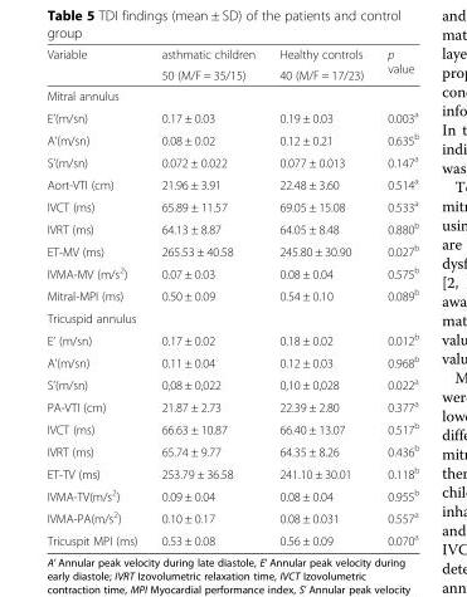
<table><thead><tr><td rowspan="2">Variable</td><td rowspan="2">asthmatic children 50 (M/F = 35/15)</td><td rowspan="2">Healthy controls 40 (M/F = 17/23)</td><td rowspan="2">p value</td></tr><tr></tr></thead><tbody><tr><td colspan="4">Mitral annulus</td></tr><tr><td>E’(m/sn)</td><td>0.17 ± 0.03</td><td>0.19 ± 0.03</td><td>0.003<sup>a</sup></td></tr><tr><td>A’(m/sn)</td><td>0.08 ± 0.02</td><td>0.12 ± 0.21</td><td>0.635<sup>b</sup></td></tr><tr><td>S’(m/sn)</td><td>0.072 ± 0.022</td><td>0.077 ± 0.013</td><td>0.147<sup>a</sup></td></tr><tr><td>Aort-VTI (cm)</td><td>21.96 ± 3.91</td><td>22.48 ± 3.60</td><td>0.514<sup>a</sup></td></tr><tr><td>IVCT (ms)</td><td>65.89 ± 11.57</td><td>69.05 ± 15.08</td><td>0.533<sup>a</sup></td></tr><tr><td>IVRT (ms)</td><td>64.13 ± 8.87</td><td>64.05 ± 8.48</td><td>0.880<sup>b</sup></td></tr><tr><td>ET-MV (ms)</td><td>265.53 ± 40.58</td><td>245.80 ± 30.90</td><td>0.027<sup>b</sup></td></tr><tr><td>IVMA-MV (m/s<sup>2</sup>)</td><td>0.07 ± 0.03</td><td>0.08 ± 0.04</td><td>0.575<sup>b</sup></td></tr><tr><td>Mitral-MPI (ms)</td><td>0.50 ± 0.09</td><td>0.54 ± 0.10</td><td>0.089<sup>b</sup></td></tr><tr><td colspan="4">Tricuspid annulus</td></tr><tr><td>E’ (m/sn)</td><td>0.17 ± 0.02</td><td>0.18 ± 0.02</td><td>0.012<sup>b</sup></td></tr><tr><td>A’(m/sn)</td><td>0.11 ± 0.04</td><td>0.12 ± 0.03</td><td>0.968<sup>b</sup></td></tr><tr><td>S’(m/sn)</td><td>0,08 ± 0,022</td><td>0,10 ± 0,028</td><td>0.022<sup>a</sup></td></tr><tr><td>PA-VTI (cm)</td><td>21.87 ± 2.73</td><td>22.39 ± 2.80</td><td>0.377<sup>a</sup></td></tr><tr><td>IVCT (ms)</td><td>66.63 ± 10.87</td><td>66.40 ± 13.07</td><td>0.517<sup>b</sup></td></tr><tr><td>IVRT (ms)</td><td>65.74 ± 9.77</td><td>64.35 ± 8.26</td><td>0.436<sup>b</sup></td></tr><tr><td>ET-TV (ms)</td><td>253.79 ± 36.58</td><td>241.10 ± 30.01</td><td>0.118<sup>b</sup></td></tr><tr><td>IVMA-TV(m/s<sup>2</sup>)</td><td>0.09 ± 0.04</td><td>0.08 ± 0.04</td><td>0.955<sup>b</sup></td></tr><tr><td>IVMA-PA(m/s<sup>2</sup>)</td><td>0.10 ± 0.17</td><td>0.08 ± 0.031</td><td>0.557<sup>a</sup></td></tr><tr><td>Tricuspit MPI (ms)</td><td>0.53 ± 0.08</td><td>0.56 ± 0.09</td><td>0.070<sup>a</sup></td></tr></tbody></table>